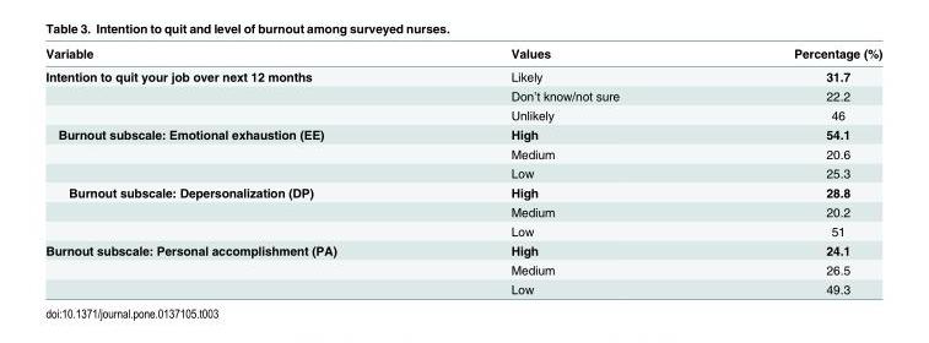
<table><thead><tr><td>Variable</td><td>Values</td><td>Percentage (%)</td></tr></thead><tbody><tr><td rowspan="3">Intention to quit your job over next 12 months</td><td>Likely</td><td>31.7</td></tr><tr><td>Don’t know/not sure</td><td>22.2</td></tr><tr><td>Unlikely</td><td>46</td></tr><tr><td rowspan="3">Burnout subscale: Emotional exhaustion (EE)</td><td>High</td><td>54.1</td></tr><tr><td>Medium</td><td>20.6</td></tr><tr><td>Low</td><td>25.3</td></tr><tr><td rowspan="3">Burnout subscale: Depersonalization (DP)</td><td>High</td><td>28.8</td></tr><tr><td>Medium</td><td>20.2</td></tr><tr><td>Low</td><td>51</td></tr><tr><td rowspan="3">Burnout subscale: Personal accomplishment (PA)</td><td>High</td><td>24.1</td></tr><tr><td>Medium</td><td>26.5</td></tr><tr><td>Low</td><td>49.3</td></tr></tbody></table>